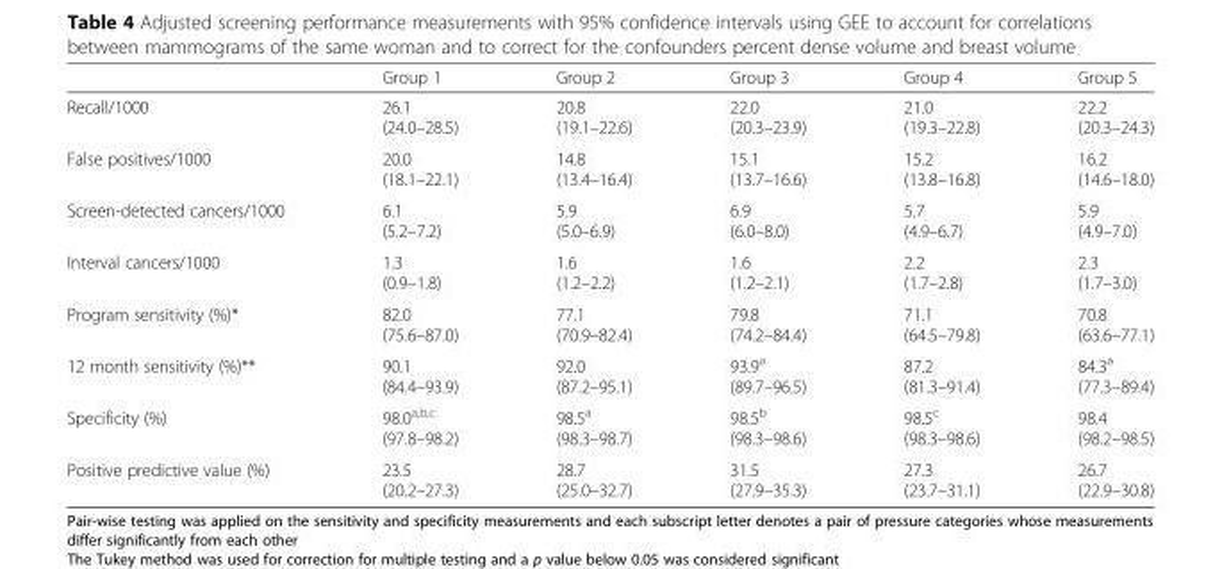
<table><thead><tr><td></td><td>Group 1</td><td>Group 2</td><td>Group 3</td><td>Group 4</td><td>Group 5</td></tr></thead><tbody><tr><td>Recall/1000</td><td>26.1 (24.0–28.5)</td><td>20.8 (19.1–22.6)</td><td>22.0 (20.3–23.9)</td><td>21.0 (19.3–22.8)</td><td>22.2 (20.3–24.3)</td></tr><tr><td>False positives/1000</td><td>20.0 (18.1–22.1)</td><td>14.8 (13.4–16.4)</td><td>15.1 (13.7–16.6)</td><td>15.2 (13.8–16.8)</td><td>16.2 (14.6–18.0)</td></tr><tr><td>Screen-detected cancers/1000</td><td>6.1 (5.2–7.2)</td><td>5.9 (5.0–6.9)</td><td>6.9 (6.0–8.0)</td><td>5.7 (4.9–6.7)</td><td>5.9 (4.9–7.0)</td></tr><tr><td>Interval cancers/1000</td><td>1.3 (0.9–1.8)</td><td>1.6 (1.2–2.2)</td><td>1.6 (1.2–2.1)</td><td>2.2 (1.7–2.8)</td><td>2.3 (1.7–3.0)</td></tr><tr><td>Program sensitivity (%)*</td><td>82.0 (75.6–87.0)</td><td>77.1 (70.9–82.4)</td><td>79.8 (74.2–84.4)</td><td>71.1 (64.5–79.8)</td><td>70.8 (63.6–77.1)</td></tr><tr><td>12 month sensitivity (%)**</td><td>90.1 (84.4–93.9)</td><td>92.0 (87.2–95.1)</td><td>93.9<sup>a</sup> (89.7–96.5)</td><td>87.2 (81.3–91.4)</td><td>84.3<sup>a</sup> (77.3–89.4)</td></tr><tr><td>Specificity (%)</td><td>98.0<sup>a,b,c</sup> (97.8–98.2)</td><td>98.5<sup>a</sup> (98.3–98.7)</td><td>98.5<sup>b</sup> (98.3–98.6)</td><td>98.5<sup>c</sup> (98.3–98.6)</td><td>98.4 (98.2–98.5)</td></tr><tr><td>Positive predictive value (%)</td><td>23.5 (20.2–27.3)</td><td>28.7 (25.0–32.7)</td><td>31.5 (27.9–35.3)</td><td>27.3 (23.7–31.1)</td><td>26.7 (22.9–30.8)</td></tr></tbody></table>